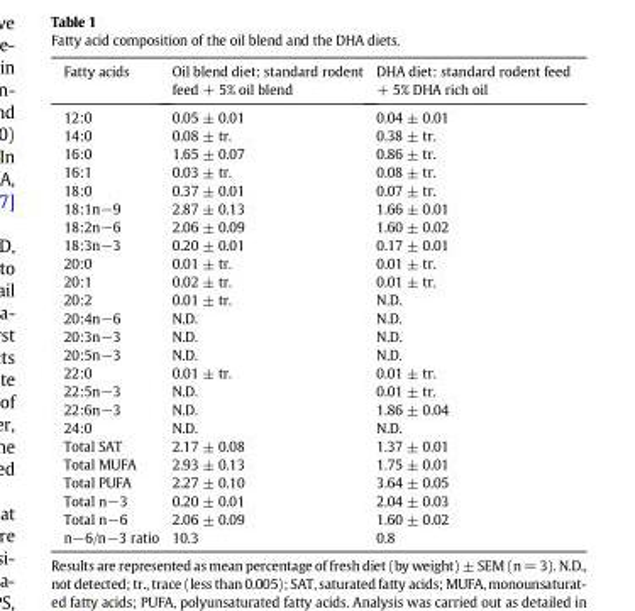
<table><thead><tr><td>Fatty acids</td><td>Oil blend diet: standard rodent feed + 5% oil blend</td><td>DHA diet: standard rodent feed + 5% DHA rich oil</td></tr></thead><tbody><tr><td>12:0</td><td>0.05 ± 0.01</td><td>0.04 ± 0.01</td></tr><tr><td>14:0</td><td>0.08 ± tr.</td><td>0.38 ± tr.</td></tr><tr><td>16:0</td><td>1.65 ± 0.07</td><td>0.86 ± tr.</td></tr><tr><td>16:1</td><td>0.03 ± tr.</td><td>0.08 ± tr.</td></tr><tr><td>18:0</td><td>0.37 ± 0.01</td><td>0.07 ± tr.</td></tr><tr><td>18:1n−9</td><td>2.87 ± 0.13</td><td>1.66 ± 0.01</td></tr><tr><td>18:2n−6</td><td>2.06 ± 0.09</td><td>1.60 ± 0.02</td></tr><tr><td>18:3n−3</td><td>0.20 ± 0.01</td><td>0.17 ± 0.01</td></tr><tr><td>20:0</td><td>0.01 ± tr.</td><td>0.01 ± tr.</td></tr><tr><td>20:1</td><td>0.02 ± tr.</td><td>0.01 ± tr.</td></tr><tr><td>20:2</td><td>0.01 ± tr.</td><td>N.D.</td></tr><tr><td>20:4n−6</td><td>N.D.</td><td>N.D.</td></tr><tr><td>20:3n−3</td><td>N.D.</td><td>N.D.</td></tr><tr><td>20:5n−3</td><td>N.D.</td><td>N.D.</td></tr><tr><td>22:0</td><td>0.01 ± tr.</td><td>0.01 ± tr.</td></tr><tr><td>22:5n−3</td><td>N.D.</td><td>0.01 ± tr.</td></tr><tr><td>22:6n−3</td><td>N.D.</td><td>1.86 ± 0.04</td></tr><tr><td>24:0</td><td>N.D.</td><td>N.D.</td></tr><tr><td>Total SAT</td><td>2.17 ± 0.08</td><td>1.37 ± 0.01</td></tr><tr><td>Total MUFA</td><td>2.93 ± 0.13</td><td>1.75 ± 0.01</td></tr><tr><td>Total PUFA</td><td>2.27 ± 0.10</td><td>3.64 ± 0.05</td></tr><tr><td>Total n−3</td><td>0.20 ± 0.01</td><td>2.04 ± 0.03</td></tr><tr><td>Total n−6</td><td>2.06 ± 0.09</td><td>1.60 ± 0.02</td></tr><tr><td>n−6/n−3 ratio</td><td>10.3</td><td>0.8</td></tr></tbody></table>